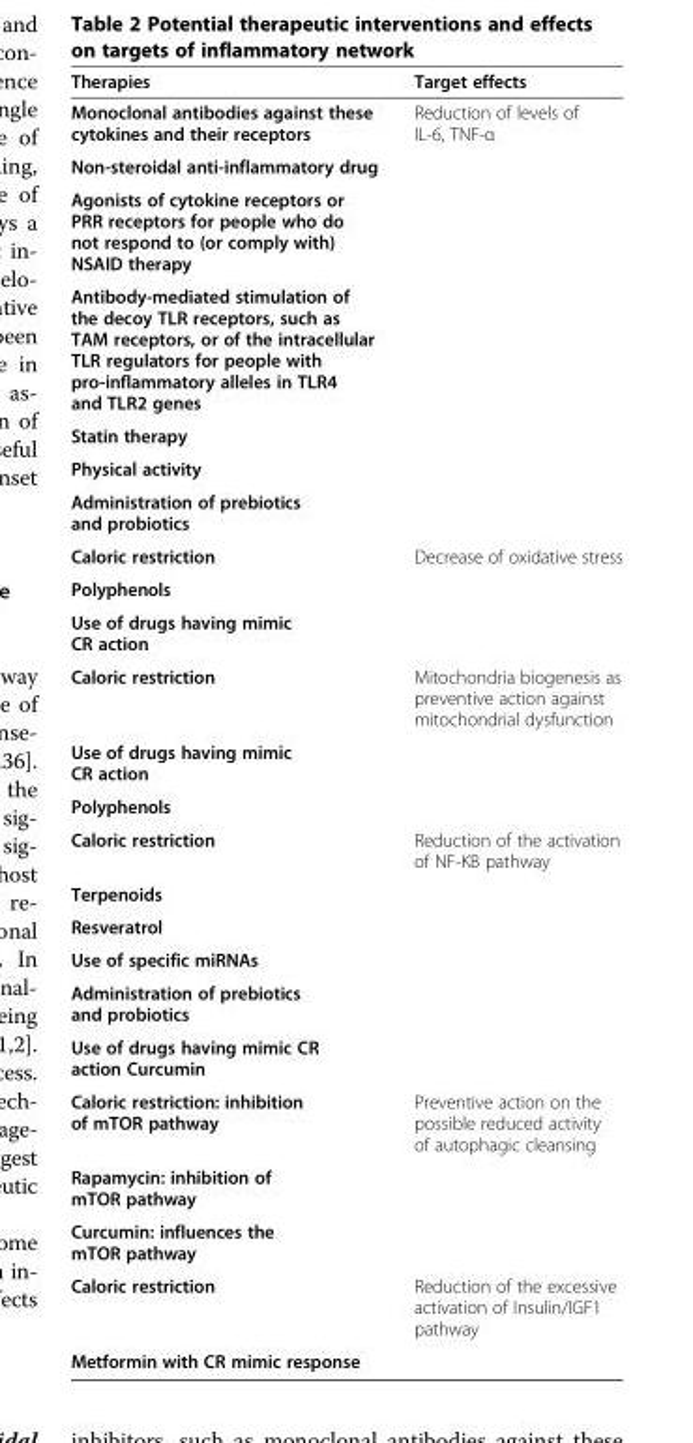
<table><thead><tr><td>Therapies</td><td>Target effects</td></tr></thead><tbody><tr><td>Monoclonal antibodies against these cytokines and their receptors</td><td>Reduction of levels of IL-6, TNF-α</td></tr><tr><td colspan="2">Non-steroidal anti-inflammatory drug</td></tr><tr><td colspan="2">Agonists of cytokine receptors or PRR receptors for people who do not respond to (or comply with) NSAID therapy</td></tr><tr><td colspan="2">Antibody-mediated stimulation of the decoy TLR receptors, such as TAM receptors, or of the intracellular TLR regulators for people with pro-inflammatory alleles in TLR4 and TLR2 genes</td></tr><tr><td colspan="2">Statin therapy</td></tr><tr><td colspan="2">Physical activity</td></tr><tr><td colspan="2">Administration of prebiotics and probiotics</td></tr><tr><td>Caloric restriction</td><td>Decrease of oxidative stress</td></tr><tr><td colspan="2">Polyphenols</td></tr><tr><td colspan="2">Use of drugs having mimic CR action</td></tr><tr><td>Caloric restriction</td><td>Mitochondria biogenesis as preventive action against mitochondrial dysfunction</td></tr><tr><td colspan="2">Use of drugs having mimic CR action</td></tr><tr><td colspan="2">Polyphenols</td></tr><tr><td>Caloric restriction</td><td>Reduction of the activation of NF-KB pathway</td></tr><tr><td colspan="2">Terpenoids</td></tr><tr><td colspan="2">Resveratrol</td></tr><tr><td colspan="2">Use of specific miRNAs</td></tr><tr><td colspan="2">Administration of prebiotics and probiotics</td></tr><tr><td colspan="2">Use of drugs having mimic CR action Curcumin</td></tr><tr><td>Caloric restriction: inhibition of mTOR pathway</td><td>Preventive action on the possible reduced activity of autophagic cleansing</td></tr><tr><td colspan="2">Rapamycin: inhibition of mTOR pathway</td></tr><tr><td colspan="2">Curcumin: influences the mTOR pathway</td></tr><tr><td>Caloric restriction</td><td>Reduction of the excessive activation of Insulin/IGF1 pathway</td></tr><tr><td>Metformin with CR mimic response</td><td></td></tr></tbody></table>